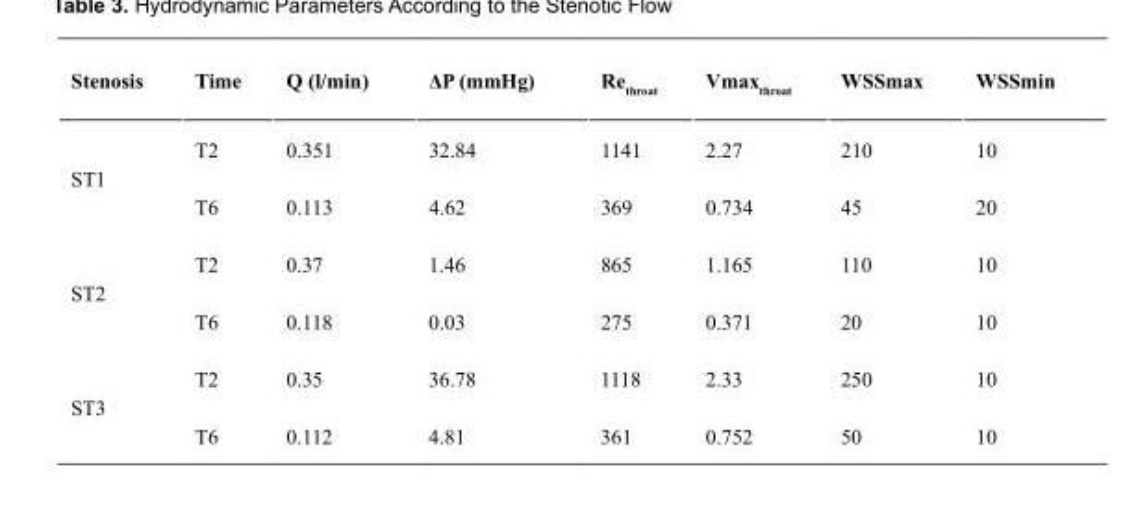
<table><thead><tr><td>Stenosis</td><td>Time</td><td>Q (l/min)</td><td>ΔP (mmHg)</td><td>Re<sub>throat</sub></td><td>Vmax<sub>throat</sub></td><td>WSSmax</td><td>WSSmin</td></tr></thead><tbody><tr><td rowspan="2">ST1</td><td>T2</td><td>0.351</td><td>32.84</td><td>1141</td><td>2.27</td><td>210</td><td>10</td></tr><tr><td>T6</td><td>0.113</td><td>4.62</td><td>369</td><td>0.734</td><td>45</td><td>20</td></tr><tr><td rowspan="2">ST2</td><td>T2</td><td>0.37</td><td>1.46</td><td>865</td><td>1.165</td><td>110</td><td>10</td></tr><tr><td>T6</td><td>0.118</td><td>0.03</td><td>275</td><td>0.371</td><td>20</td><td>10</td></tr><tr><td rowspan="2">ST3</td><td>T2</td><td>0.35</td><td>36.78</td><td>1118</td><td>2.33</td><td>250</td><td>10</td></tr><tr><td>T6</td><td>0.112</td><td>4.81</td><td>361</td><td>0.752</td><td>50</td><td>10</td></tr></tbody></table>